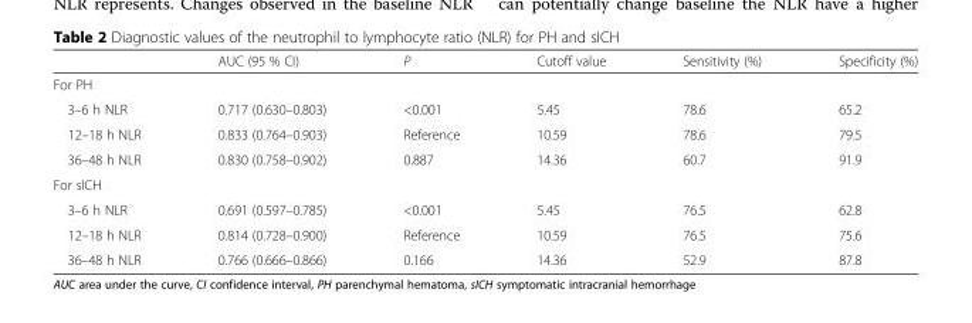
<table><thead><tr><td></td><td>AUC (95 % CI)</td><td>P</td><td>Cutoff value</td><td>Sensitivity (%)</td><td>Specificity (%)</td></tr></thead><tbody><tr><td colspan="6">For PH</td></tr><tr><td>3–6 h NLR</td><td>0.717 (0.630–0.803)</td><td>&lt;0.001</td><td>5.45</td><td>78.6</td><td>65.2</td></tr><tr><td>12–18 h NLR</td><td>0.833 (0.764–0.903)</td><td>Reference</td><td>10.59</td><td>78.6</td><td>79.5</td></tr><tr><td>36–48 h NLR</td><td>0.830 (0.758–0.902)</td><td>0.887</td><td>14.36</td><td>60.7</td><td>91.9</td></tr><tr><td colspan="6">For sICH</td></tr><tr><td>3–6 h NLR</td><td>0.691 (0.597–0.785)</td><td>&lt;0.001</td><td>5.45</td><td>76.5</td><td>62.8</td></tr><tr><td>12–18 h NLR</td><td>0.814 (0.728–0.900)</td><td>Reference</td><td>10.59</td><td>76.5</td><td>75.6</td></tr><tr><td>36–48 h NLR</td><td>0.766 (0.666–0.866)</td><td>0.166</td><td>14.36</td><td>52.9</td><td>87.8</td></tr></tbody></table>